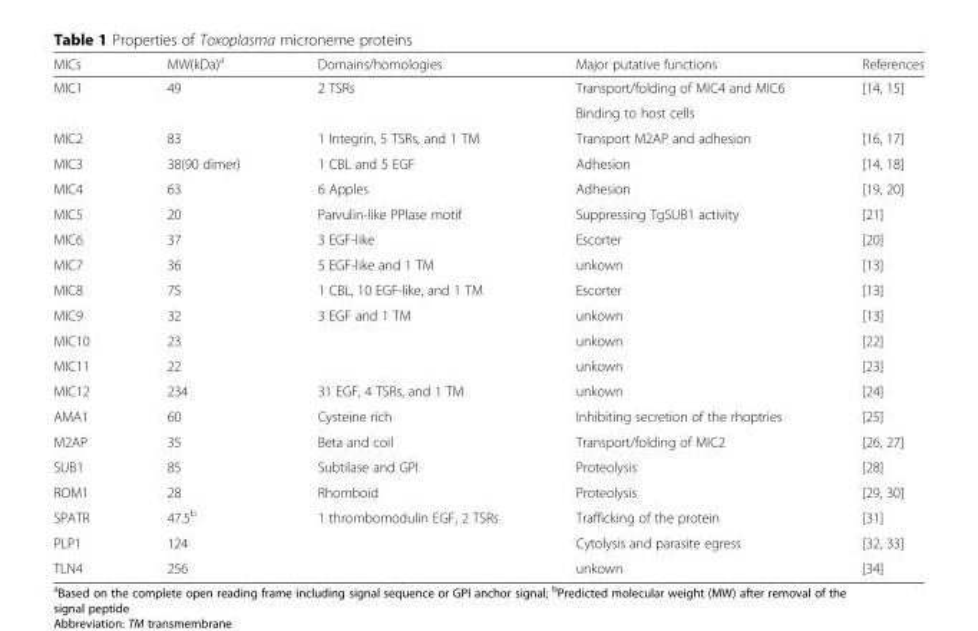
<table><thead><tr><td>MICs</td><td>MW(kDa)<sup>a</sup></td><td>Domains/homologies</td><td>Major putative functions</td><td>References</td></tr></thead><tbody><tr><td rowspan="2">MIC1</td><td>49</td><td>2 TSRs</td><td>Transport/folding of MIC4 and MIC6</td><td>[14, 15]</td></tr><tr><td></td><td></td><td>Binding to host cells</td><td></td></tr><tr><td>MIC2</td><td>83</td><td>1 Integrin, 5 TSRs, and 1 TM</td><td>Transport M2AP and adhesion</td><td>[16, 17]</td></tr><tr><td>MIC3</td><td>38(90 dimer)</td><td>1 CBL and 5 EGF</td><td>Adhesion</td><td>[14, 18]</td></tr><tr><td>MIC4</td><td>63</td><td>6 Apples</td><td>Adhesion</td><td>[19, 20]</td></tr><tr><td>MIC5</td><td>20</td><td>Parvulin-like PPIase motif</td><td>Suppressing TgSUB1 activity</td><td>[21]</td></tr><tr><td>MIC6</td><td>37</td><td>3 EGF-like</td><td>Escorter</td><td>[20]</td></tr><tr><td>MIC7</td><td>36</td><td>5 EGF-like and 1 TM</td><td>unkown</td><td>[13]</td></tr><tr><td>MIC8</td><td>75</td><td>1 CBL, 10 EGF-like, and 1 TM</td><td>Escorter</td><td>[13]</td></tr><tr><td>MIC9</td><td>32</td><td>3 EGF and 1 TM</td><td>unkown</td><td>[13]</td></tr><tr><td>MIC10</td><td>23</td><td></td><td>unkown</td><td>[22]</td></tr><tr><td>MIC11</td><td>22</td><td></td><td>unkown</td><td>[23]</td></tr><tr><td>MIC12</td><td>234</td><td>31 EGF, 4 TSRs, and 1 TM</td><td>unkown</td><td>[24]</td></tr><tr><td>AMA1</td><td>60</td><td>Cysteine rich</td><td>Inhibiting secretion of the rhoptries</td><td>[25]</td></tr><tr><td>M2AP</td><td>35</td><td>Beta and coil</td><td>Transport/folding of MIC2</td><td>[26, 27]</td></tr><tr><td>SUB1</td><td>85</td><td>Subtilase and GPI</td><td>Proteolysis</td><td>[28]</td></tr><tr><td>ROM1</td><td>28</td><td>Rhomboid</td><td>Proteolysis</td><td>[29, 30]</td></tr><tr><td>SPATR</td><td>47.5<sup>b</sup></td><td>1 thrombomodulin EGF, 2 TSRs</td><td>Trafficking of the protein</td><td>[31]</td></tr><tr><td>PLP1</td><td>124</td><td></td><td>Cytolysis and parasite egress</td><td>[32, 33]</td></tr><tr><td>TLN4</td><td>256</td><td></td><td>unkown</td><td>[34]</td></tr></tbody></table>